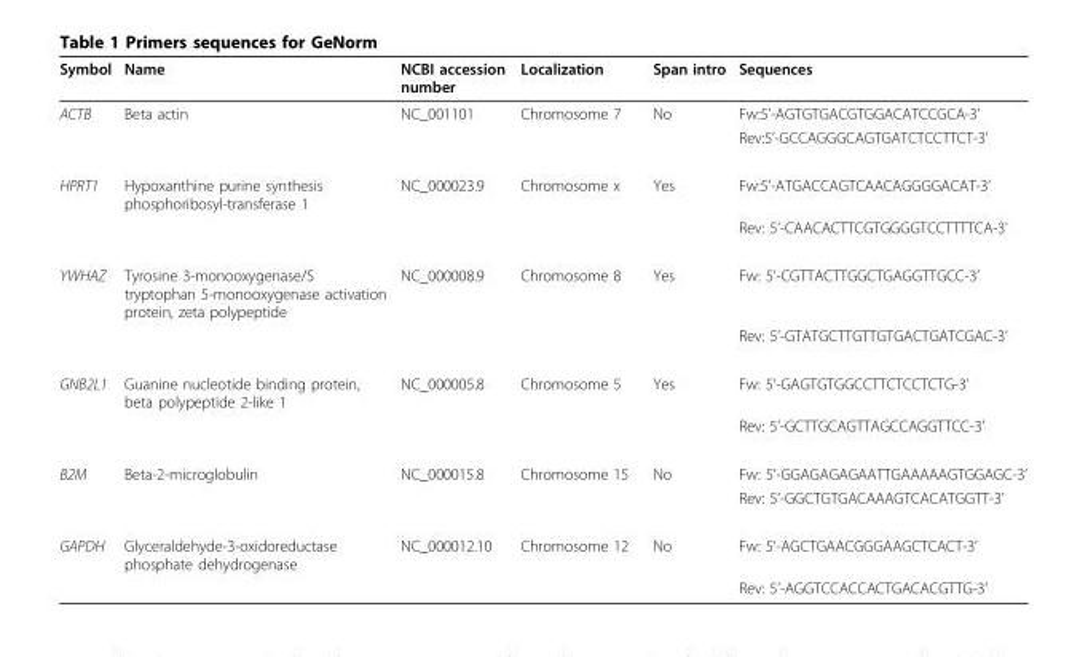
<table><thead><tr><td>Symbol</td><td>Name</td><td>NCBI accession number</td><td>Localization</td><td>Span intro</td><td>Sequences</td></tr></thead><tbody><tr><td rowspan="2">ACTB</td><td>Beta actin</td><td>NC_001101</td><td>Chromosome 7</td><td>No</td><td>Fw:5’-AGTGTGACGTGGACATCCGCA-3’</td></tr><tr><td></td><td></td><td></td><td></td><td>Rev:5’-GCCAGGGCAGTGATCTCCTTCT-3’</td></tr><tr><td rowspan="2">HPRT1</td><td>Hypoxanthine purine synthesis phosphoribosyl-transferase 1</td><td>NC_000023.9</td><td>Chromosome x</td><td>Yes</td><td>Fw:5’-ATGACCAGTCAACAGGGGACAT-3’</td></tr><tr><td></td><td></td><td></td><td></td><td>Rev: 5’-CAACACTTCGTGGGGTCCTTTTCA-3’</td></tr><tr><td rowspan="2">YWHAZ</td><td>Tyrosine 3-monooxygenase/S tryptophan 5-monooxygenase activation protein, zeta polypeptide</td><td>NC_000008.9</td><td>Chromosome 8</td><td>Yes</td><td>Fw: 5’-CGTTACTTGGCTGAGGTTGCC-3’</td></tr><tr><td></td><td></td><td></td><td></td><td>Rev: 5’-GTATGCTTGTTGTGACTGATCGAC-3’</td></tr><tr><td rowspan="2">GNB2L1</td><td>Guanine nucleotide binding protein, beta polypeptide 2-like 1</td><td>NC_000005.8</td><td>Chromosome 5</td><td>Yes</td><td>Fw: 5’-GAGTGTGGCCTTCTCCTCTG-3’</td></tr><tr><td></td><td></td><td></td><td></td><td>Rev: 5’-GCTTGCAGTTAGCCAGGTTCC-3’</td></tr><tr><td rowspan="2">B2M</td><td>Beta-2-microglobulin</td><td>NC_000015.8</td><td>Chromosome 15</td><td>No</td><td>Fw: 5’-GGAGAGAGAATTGAAAAAGTGGAGC-3’</td></tr><tr><td></td><td></td><td></td><td></td><td>Rev: 5’-GGCTGTGACAAAGTCACATGGTT-3’</td></tr><tr><td rowspan="2">GAPDH</td><td>Glyceraldehyde-3-oxidoreductase phosphate dehydrogenase</td><td>NC_000012.10</td><td>Chromosome 12</td><td>No</td><td>Fw: 5’-AGCTGAACGGGAAGCTCACT-3’</td></tr><tr><td></td><td></td><td></td><td></td><td>Rev: 5’-AGGTCCACCACTGACACGTTG-3’</td></tr></tbody></table>